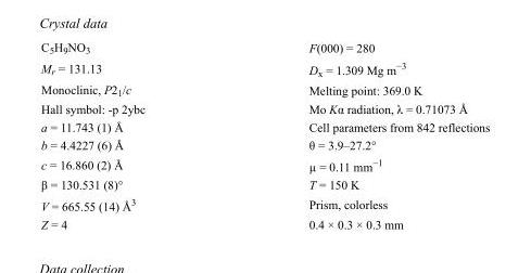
<table><tbody><tr><td>C<sub>5</sub>H<sub>9</sub>NO<sub>3</sub></td><td>F(000) = 280</td></tr><tr><td>M<sub>r</sub> = 131.13</td><td>D<sub>x</sub> = 1.309 Mg m<sup>−3</sup></td></tr><tr><td>Monoclinic, P2<sub>1</sub>/c</td><td>Melting point: 369.0 K</td></tr><tr><td>Hall symbol: -p 2ybc</td><td>Mo Kα radiation, λ = 0.71073 Å</td></tr><tr><td>a = 11.743 (1) Å</td><td>Cell parameters from 842 reflections</td></tr><tr><td>b = 4.4227 (6) Å</td><td>θ = 3.9–27.2°</td></tr><tr><td>c = 16.860 (2) Å</td><td>µ = 0.11 mm<sup>−1</sup></td></tr><tr><td>β = 130.531 (8)°</td><td>T = 150 K</td></tr><tr><td>V = 665.55 (14) Å<sup>3</sup></td><td>Prism, colorless</td></tr><tr><td>Z = 4</td><td>0.4 × 0.3 × 0.3 mm</td></tr></tbody></table>